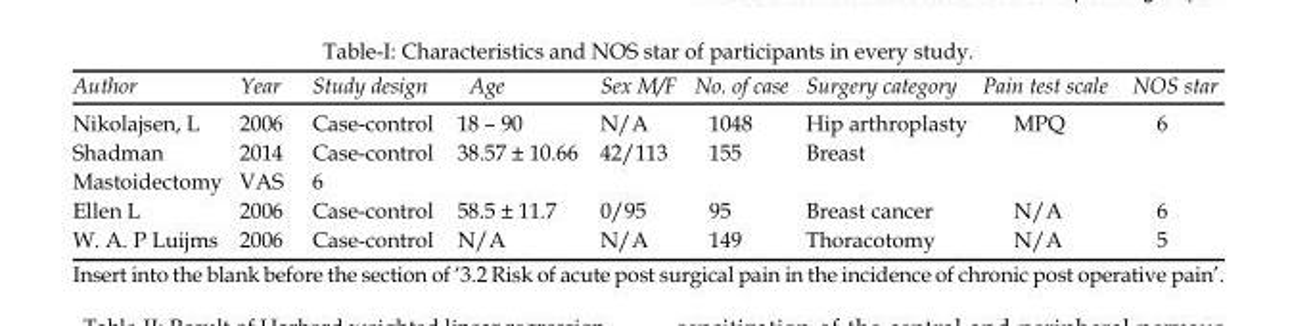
<table><thead><tr><td>Author</td><td>Year</td><td>Study design</td><td>Age</td><td>Sex M/F</td><td>No. of case</td><td>Surgery category</td><td>Pain test scale</td><td>NOS star</td></tr></thead><tbody><tr><td>Nikolajsen, L</td><td>2006</td><td>Case-control</td><td>18 – 90</td><td>N/A</td><td>1048</td><td>Hip arthroplasty</td><td>MPQ</td><td>6</td></tr><tr><td>Shadman</td><td>2014</td><td>Case-control</td><td>38.57 ± 10.66</td><td>42/113</td><td>155</td><td>Breast</td><td></td><td></td></tr><tr><td>Mastoidectomy</td><td>VAS</td><td>6</td><td></td><td></td><td></td><td></td><td></td><td></td></tr><tr><td>Ellen L</td><td>2006</td><td>Case-control</td><td>58.5 ± 11.7</td><td>0/95</td><td>95</td><td>Breast cancer</td><td>N/A</td><td>6</td></tr><tr><td>W. A. P Luijms</td><td>2006</td><td>Case-control</td><td>N/A</td><td>N/A</td><td>149</td><td>Thoracotomy</td><td>N/A</td><td>5</td></tr></tbody></table>